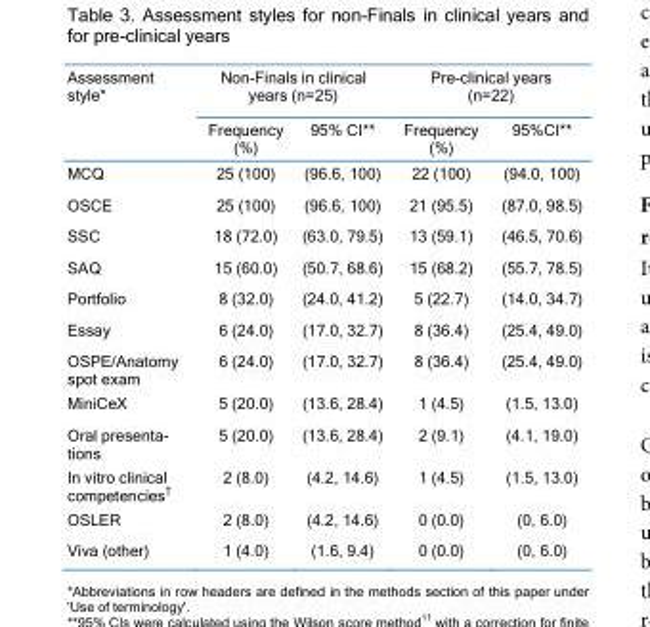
<table><thead><tr><td rowspan="2">Assessment style*</td><td colspan="2">Non-Finals in clinical years (n=25)</td><td colspan="2">Pre-clinical years (n=22)</td></tr><tr><td>Frequency (%)</td><td>95% CI**</td><td>Frequency (%)</td><td>95%CI**</td></tr></thead><tbody><tr><td>MCQ</td><td>25 (100)</td><td>(96.6, 100)</td><td>22 (100)</td><td>(94.0, 100)</td></tr><tr><td>OSCE</td><td>25 (100)</td><td>(96.6, 100)</td><td>21 (95.5)</td><td>(87.0, 98.5)</td></tr><tr><td>SSC</td><td>18 (72.0)</td><td>(63.0, 79.5)</td><td>13 (59.1)</td><td>(46.5, 70.6)</td></tr><tr><td>SAQ</td><td>15 (60.0)</td><td>(50.7, 68.6)</td><td>15 (68.2)</td><td>(55.7, 78.5)</td></tr><tr><td>Portfolio</td><td>8 (32.0)</td><td>(24.0, 41.2)</td><td>5 (22.7)</td><td>(14.0, 34.7)</td></tr><tr><td>Essay</td><td>6 (24.0)</td><td>(17.0, 32.7)</td><td>8 (36.4)</td><td>(25.4, 49.0)</td></tr><tr><td>OSPE/Anatomy spot exam</td><td>6 (24.0)</td><td>(17.0, 32.7)</td><td>8 (36.4)</td><td>(25.4, 49.0)</td></tr><tr><td>MiniCeX</td><td>5 (20.0)</td><td>(13.6, 28.4)</td><td>1 (4.5)</td><td>(1.5, 13.0)</td></tr><tr><td>Oral presenta- tions</td><td>5 (20.0)</td><td>(13.6, 28.4)</td><td>2 (9.1)</td><td>(4.1, 19.0)</td></tr><tr><td>In vitro clinical competencies<sup>†</sup></td><td>2 (8.0)</td><td>(4.2, 14.6)</td><td>1 (4.5)</td><td>(1.5, 13.0)</td></tr><tr><td>OSLER</td><td>2 (8.0)</td><td>(4.2, 14.6)</td><td>0 (0.0)</td><td>(0, 6.0)</td></tr><tr><td>Viva (other)</td><td>1 (4.0)</td><td>(1.6, 9.4)</td><td>0 (0.0)</td><td>(0, 6.0)</td></tr></tbody></table>